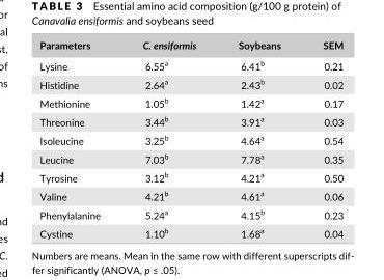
<table><thead><tr><td>Parameters</td><td>C. ensiformis</td><td>Soybeans</td><td>SEM</td></tr></thead><tbody><tr><td>Lysine</td><td>6.55<sup>a</sup></td><td>6.41<sup>b</sup></td><td>0.21</td></tr><tr><td>Histidine</td><td>2.64<sup>a</sup></td><td>2.43<sup>b</sup></td><td>0.02</td></tr><tr><td>Methionine</td><td>1.05<sup>b</sup></td><td>1.42<sup>a</sup></td><td>0.17</td></tr><tr><td>Threonine</td><td>3.44<sup>b</sup></td><td>3.91<sup>a</sup></td><td>0.03</td></tr><tr><td>Isoleucine</td><td>3.25<sup>b</sup></td><td>4.64<sup>a</sup></td><td>0.54</td></tr><tr><td>Leucine</td><td>7.03<sup>b</sup></td><td>7.78<sup>a</sup></td><td>0.35</td></tr><tr><td>Tyrosine</td><td>3.12<sup>b</sup></td><td>4.21<sup>a</sup></td><td>0.50</td></tr><tr><td>Valine</td><td>4.21<sup>b</sup></td><td>4.61<sup>a</sup></td><td>0.06</td></tr><tr><td>Phenylalanine</td><td>5.24<sup>a</sup></td><td>4.15<sup>b</sup></td><td>0.23</td></tr><tr><td>Cystine</td><td>1.10<sup>b</sup></td><td>1.68<sup>a</sup></td><td>0.04</td></tr></tbody></table>